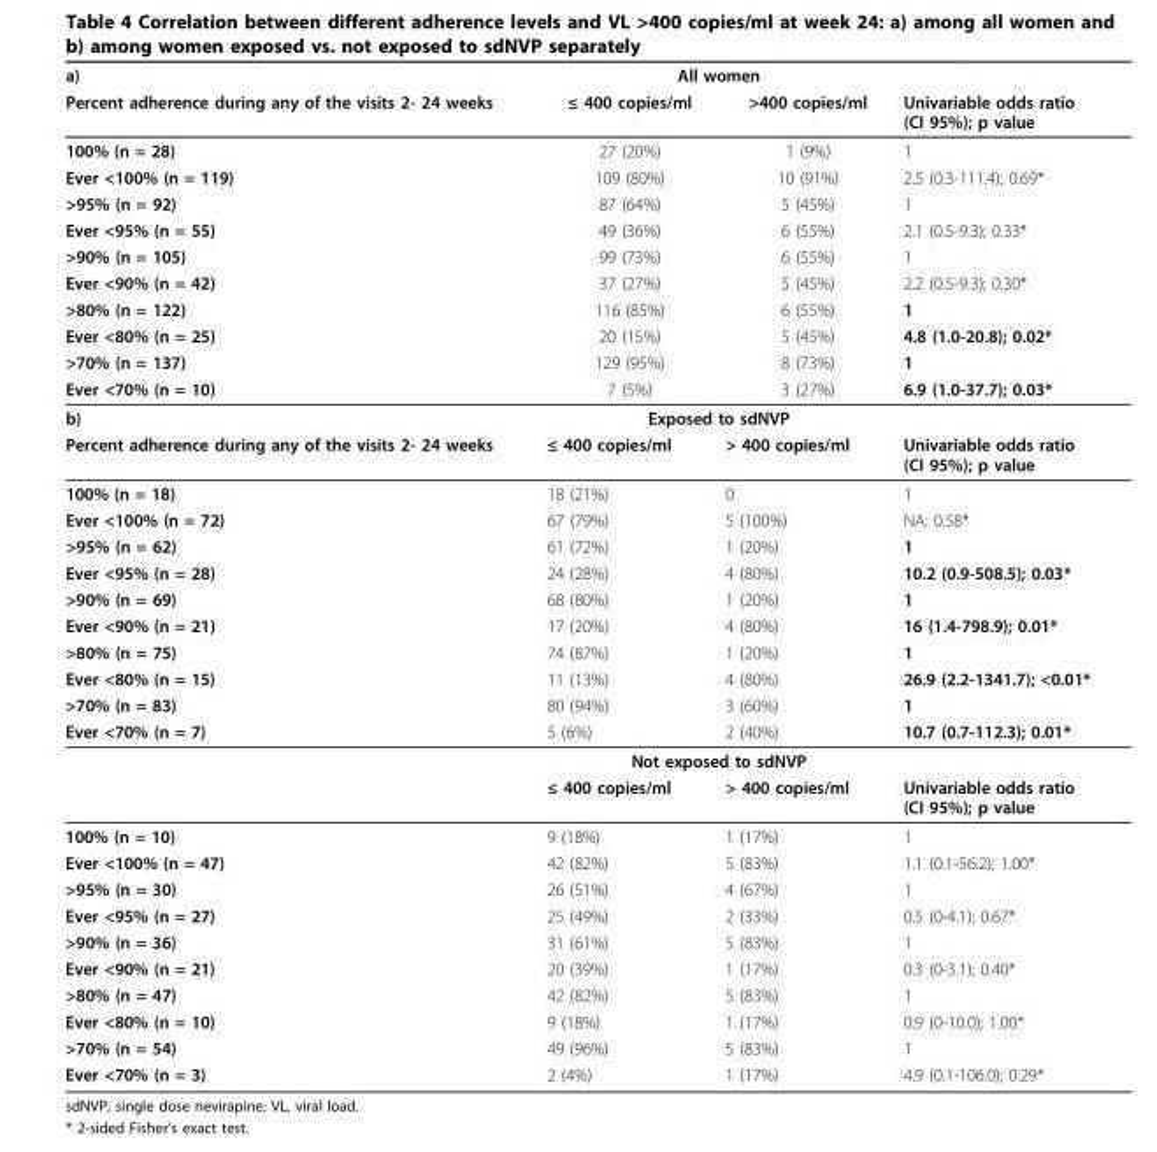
<table><thead><tr><td rowspan="2">a) Percent adherence during any of the visits 2- 24 weeks</td><td colspan="2">All women</td><td rowspan="2">Univariable odds ratio (CI 95%); p value</td></tr><tr><td>≤ 400 copies/ml</td><td>&gt;400 copies/ml</td></tr></thead><tbody><tr><td>100% (n = 28)</td><td>27 (20%)</td><td>1 (9%)</td><td>1</td></tr><tr><td>Ever &lt;100% (n = 119)</td><td>109 (80%)</td><td>10 (91%)</td><td>2.5 (0.3-111.4); 0.69*</td></tr><tr><td>&gt;95% (n = 92)</td><td>87 (64%)</td><td>5 (45%)</td><td>1</td></tr><tr><td>Ever &lt;95% (n = 55)</td><td>49 (36%)</td><td>6 (55%)</td><td>2.1 (0.5-9.3); 0.33*</td></tr><tr><td>&gt;90% (n = 105)</td><td>99 (73%)</td><td>6 (55%)</td><td>1</td></tr><tr><td>Ever &lt;90% (n = 42)</td><td>37 (27%)</td><td>5 (45%)</td><td>2.2 (0.5-9.3); 0.30*</td></tr><tr><td>&gt;80% (n = 122)</td><td>116 (85%)</td><td>6 (55%)</td><td>1</td></tr><tr><td>Ever &lt;80% (n = 25)</td><td>20 (15%)</td><td>5 (45%)</td><td>4.8 (1.0-20.8); 0.02*</td></tr><tr><td>&gt;70% (n = 137)</td><td>129 (95%)</td><td>8 (73%)</td><td>1</td></tr><tr><td>Ever &lt;70% (n = 10)</td><td>7 (5%)</td><td>3 (27%)</td><td>6.9 (1.0-37.7); 0.03*</td></tr><tr><td>b)</td><td colspan="2">Exposed to sdNVP</td><td></td></tr><tr><td>Percent adherence during any of the visits 2- 24 weeks</td><td>≤ 400 copies/ml</td><td>&gt; 400 copies/ml</td><td>Univariable odds ratio (CI 95%); p value</td></tr><tr><td>100% (n = 18)</td><td>18 (21%)</td><td>0</td><td>1</td></tr><tr><td>Ever &lt;100% (n = 72)</td><td>67 (79%)</td><td>5 (100%)</td><td>NA: 0.58*</td></tr><tr><td>&gt;95% (n = 62)</td><td>61 (72%)</td><td>1 (20%)</td><td>1</td></tr><tr><td>Ever &lt;95% (n = 28)</td><td>24 (28%)</td><td>4 (80%)</td><td>10.2 (0.9-508.5); 0.03*</td></tr><tr><td>&gt;90% (n = 69)</td><td>68 (80%)</td><td>1 (20%)</td><td>1</td></tr><tr><td>Ever &lt;90% (n = 21)</td><td>17 (20%)</td><td>4 (80%)</td><td>16 (1.4-798.9); 0.01*</td></tr><tr><td>&gt;80% (n = 75)</td><td>74 (87%)</td><td>1 (20%)</td><td>1</td></tr><tr><td>Ever &lt;80% (n = 15)</td><td>11 (13%)</td><td>4 (80%)</td><td>26.9 (2.2-1341.7); &lt;0.01*</td></tr><tr><td>&gt;70% (n = 83)</td><td>80 (94%)</td><td>3 (60%)</td><td>1</td></tr><tr><td rowspan="3">Ever &lt;70% (n = 7)</td><td>5 (6%)</td><td>2 (40%)</td><td>10.7 (0.7-112.3); 0.01*</td></tr><tr><td colspan="2">Not exposed to sdNVP</td><td></td></tr><tr><td>≤ 400 copies/ml</td><td>&gt; 400 copies/ml</td><td>Univariable odds ratio (CI 95%); p value</td></tr><tr><td>100% (n = 10)</td><td>9 (18%)</td><td>1 (17%)</td><td>1</td></tr><tr><td>Ever &lt;100% (n = 47)</td><td>42 (82%)</td><td>5 (83%)</td><td>1.1 (0.1-56.2); 1.00*</td></tr><tr><td>&gt;95% (n = 30)</td><td>26 (51%)</td><td>4 (67%)</td><td>1</td></tr><tr><td>Ever &lt;95% (n = 27)</td><td>25 (49%)</td><td>2 (33%)</td><td>0.5 (0-4.1); 0.67*</td></tr><tr><td>&gt;90% (n = 36)</td><td>31 (61%)</td><td>5 (83%)</td><td>1</td></tr><tr><td>Ever &lt;90% (n = 21)</td><td>20 (39%)</td><td>1 (17%)</td><td>0.3 (0-3.1); 0.40*</td></tr><tr><td>&gt;80% (n = 47)</td><td>42 (82%)</td><td>5 (83%)</td><td>1</td></tr><tr><td>Ever &lt;80% (n = 10)</td><td>9 (18%)</td><td>1 (17%)</td><td>0.9 (0-10.0); 1.00*</td></tr><tr><td>&gt;70% (n = 54)</td><td>49 (96%)</td><td>5 (83%)</td><td>1</td></tr><tr><td>Ever &lt;70% (n = 3)</td><td>2 (4%)</td><td>1 (17%)</td><td>4.9 (0.1-106.0); 0.29*</td></tr></tbody></table>